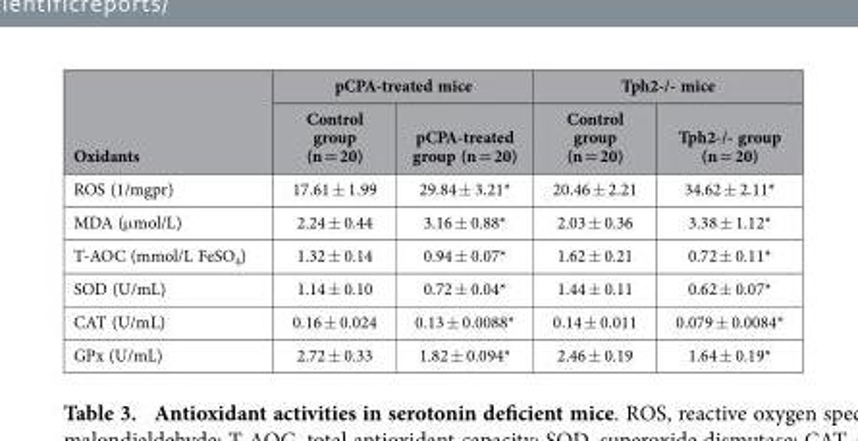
<table><thead><tr><td rowspan="2">Oxidants</td><td colspan="2">pCPA-treated mice</td><td colspan="2">Tph2-/- mice</td></tr><tr><td>Control group (n = 20)</td><td>pCPA-treated group (n = 20)</td><td>Control group (n = 20)</td><td>Tph2-/- group (n = 20)</td></tr></thead><tbody><tr><td>ROS (1/mgpr)</td><td>17.61 ± 1.99</td><td>29.84 ± 3.21*</td><td>20.46 ± 2.21</td><td>34.62 ± 2.11*</td></tr><tr><td>MDA (μ mol/L)</td><td>2.24 ± 0.44</td><td>3.16 ± 0.88*</td><td>2.03 ± 0.36</td><td>3.38 ± 1.12*</td></tr><tr><td>T-AOC (mmol/L FeSO<sub>4</sub>)</td><td>1.32 ± 0.14</td><td>0.94 ± 0.07*</td><td>1.62 ± 0.21</td><td>0.72 ± 0.11*</td></tr><tr><td>SOD (U/mL)</td><td>1.14 ± 0.10</td><td>0.72 ± 0.04*</td><td>1.44 ± 0.11</td><td>0.62 ± 0.07*</td></tr><tr><td>CAT (U/mL)</td><td>0.16 ± 0.024</td><td>0.13 ± 0.0088*</td><td>0.14 ± 0.011</td><td>0.079 ± 0.0084*</td></tr><tr><td>GPx (U/mL)</td><td>2.72 ± 0.33</td><td>1.82 ± 0.094*</td><td>2.46 ± 0.19</td><td>1.64 ± 0.19*</td></tr></tbody></table>